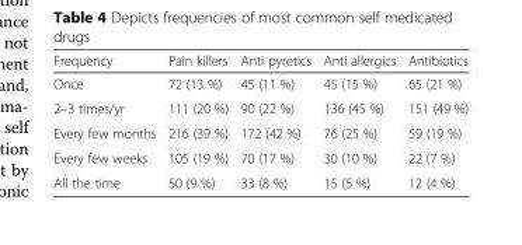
<table><thead><tr><td>Frequency</td><td>Pain killers</td><td>Anti pyretics</td><td>Anti allergics</td><td>Antibiotics</td></tr></thead><tbody><tr><td>Once</td><td>72 (13 %)</td><td>45 (11 %)</td><td>45 (15 %)</td><td>65 (21 %)</td></tr><tr><td>2–3 times/yr</td><td>111 (20 %)</td><td>90 (22 %)</td><td>136 (45 %)</td><td>151 (49 %)</td></tr><tr><td>Every few months</td><td>216 (39 %)</td><td>172 (42 %)</td><td>76 (25 %)</td><td>59 (19 %)</td></tr><tr><td>Every few weeks</td><td>105 (19 %)</td><td>70 (17 %)</td><td>30 (10 %)</td><td>22 (7 %)</td></tr><tr><td>All the time</td><td>50 (9 %)</td><td>33 (8 %)</td><td>15 (5 %)</td><td>12 (4 %)</td></tr></tbody></table>